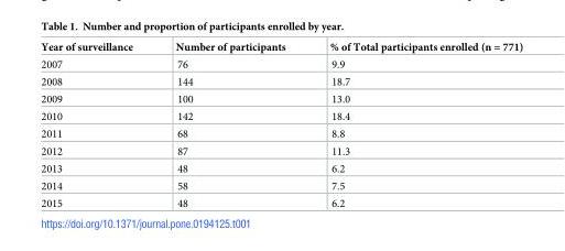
<table><thead><tr><td>Year of surveillance</td><td>Number of participants</td><td>% of Total participants enrolled (n = 771)</td></tr></thead><tbody><tr><td>2007</td><td>76</td><td>9.9</td></tr><tr><td>2008</td><td>144</td><td>18.7</td></tr><tr><td>2009</td><td>100</td><td>13.0</td></tr><tr><td>2010</td><td>142</td><td>18.4</td></tr><tr><td>2011</td><td>68</td><td>8.8</td></tr><tr><td>2012</td><td>87</td><td>11.3</td></tr><tr><td>2013</td><td>48</td><td>6.2</td></tr><tr><td>2014</td><td>58</td><td>7.5</td></tr><tr><td>2015</td><td>48</td><td>6.2</td></tr></tbody></table>